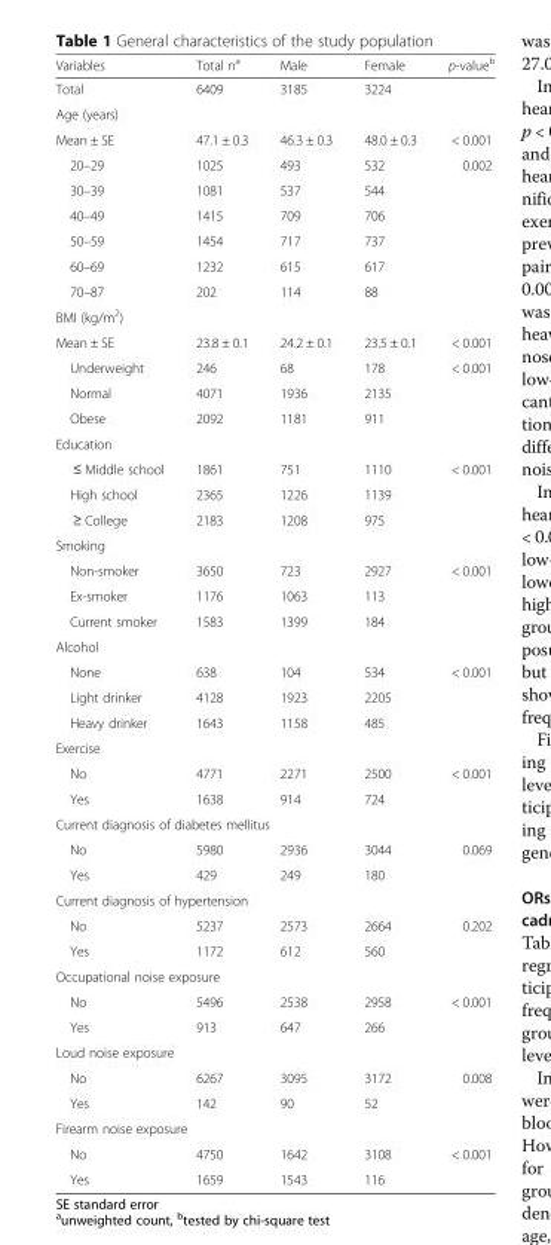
<table><thead><tr><td>Variables</td><td>Total n<sup>a</sup></td><td>Male</td><td>Female</td><td>p-value<sup>b</sup></td></tr></thead><tbody><tr><td>Total</td><td>6409</td><td>3185</td><td>3224</td><td></td></tr><tr><td colspan="5">Age (years)</td></tr><tr><td>Mean ± SE</td><td>47.1 ± 0.3</td><td>46.3 ± 0.3</td><td>48.0 ± 0.3</td><td>&lt; 0.001</td></tr><tr><td>20–29</td><td>1025</td><td>493</td><td>532</td><td>0.002</td></tr><tr><td>30–39</td><td>1081</td><td>537</td><td>544</td><td></td></tr><tr><td>40–49</td><td>1415</td><td>709</td><td>706</td><td></td></tr><tr><td>50–59</td><td>1454</td><td>717</td><td>737</td><td></td></tr><tr><td>60–69</td><td>1232</td><td>615</td><td>617</td><td></td></tr><tr><td>70–87</td><td>202</td><td>114</td><td>88</td><td></td></tr><tr><td colspan="5">BMI (kg/m<sup>2</sup>)</td></tr><tr><td>Mean ± SE</td><td>23.8 ± 0.1</td><td>24.2 ± 0.1</td><td>23.5 ± 0.1</td><td>&lt; 0.001</td></tr><tr><td>Underweight</td><td>246</td><td>68</td><td>178</td><td>&lt; 0.001</td></tr><tr><td>Normal</td><td>4071</td><td>1936</td><td>2135</td><td></td></tr><tr><td>Obese</td><td>2092</td><td>1181</td><td>911</td><td></td></tr><tr><td colspan="5">Education</td></tr><tr><td>≤ Middle school</td><td>1861</td><td>751</td><td>1110</td><td>&lt; 0.001</td></tr><tr><td>High school</td><td>2365</td><td>1226</td><td>1139</td><td></td></tr><tr><td>≥ College</td><td>2183</td><td>1208</td><td>975</td><td></td></tr><tr><td colspan="5">Smoking</td></tr><tr><td>Non-smoker</td><td>3650</td><td>723</td><td>2927</td><td>&lt; 0.001</td></tr><tr><td>Ex-smoker</td><td>1176</td><td>1063</td><td>113</td><td></td></tr><tr><td>Current smoker</td><td>1583</td><td>1399</td><td>184</td><td></td></tr><tr><td colspan="5">Alcohol</td></tr><tr><td>None</td><td>638</td><td>104</td><td>534</td><td>&lt; 0.001</td></tr><tr><td>Light drinker</td><td>4128</td><td>1923</td><td>2205</td><td></td></tr><tr><td>Heavy drinker</td><td>1643</td><td>1158</td><td>485</td><td></td></tr><tr><td colspan="5">Exercise</td></tr><tr><td>No</td><td>4771</td><td>2271</td><td>2500</td><td>&lt; 0.001</td></tr><tr><td>Yes</td><td>1638</td><td>914</td><td>724</td><td></td></tr><tr><td colspan="5">Current diagnosis of diabetes mellitus</td></tr><tr><td>No</td><td>5980</td><td>2936</td><td>3044</td><td>0.069</td></tr><tr><td>Yes</td><td>429</td><td>249</td><td>180</td><td></td></tr><tr><td colspan="5">Current diagnosis of hypertension</td></tr><tr><td>No</td><td>5237</td><td>2573</td><td>2664</td><td>0.202</td></tr><tr><td>Yes</td><td>1172</td><td>612</td><td>560</td><td></td></tr><tr><td colspan="5">Occupational noise exposure</td></tr><tr><td>No</td><td>5496</td><td>2538</td><td>2958</td><td>&lt; 0.001</td></tr><tr><td>Yes</td><td>913</td><td>647</td><td>266</td><td></td></tr><tr><td colspan="5">Loud noise exposure</td></tr><tr><td>No</td><td>6267</td><td>3095</td><td>3172</td><td>0.008</td></tr><tr><td>Yes</td><td>142</td><td>90</td><td>52</td><td></td></tr><tr><td colspan="5">Firearm noise exposure</td></tr><tr><td>No</td><td>4750</td><td>1642</td><td>3108</td><td>&lt; 0.001</td></tr><tr><td>Yes</td><td>1659</td><td>1543</td><td>116</td><td></td></tr></tbody></table>